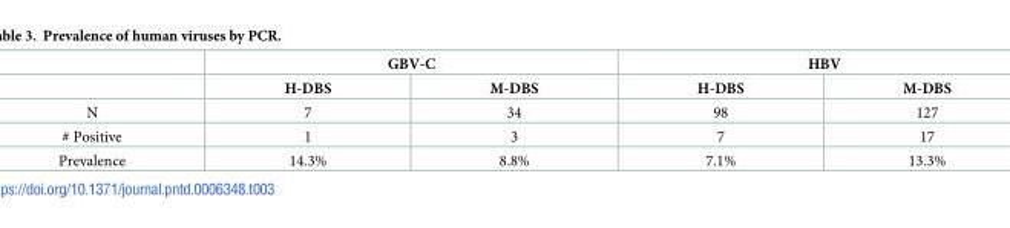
<table><thead><tr><td rowspan="2"></td><td colspan="2">GBV-C</td><td colspan="2">HBV</td></tr><tr><td>H-DBS</td><td>M-DBS</td><td>H-DBS</td><td>M-DBS</td></tr></thead><tbody><tr><td>N</td><td>7</td><td>34</td><td>98</td><td>127</td></tr><tr><td># Positive</td><td>1</td><td>3</td><td>7</td><td>17</td></tr><tr><td>Prevalence</td><td>14.3%</td><td>8.8%</td><td>7.1%</td><td>13.3%</td></tr></tbody></table>